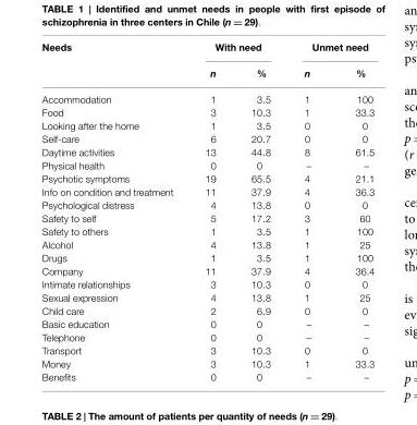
<table><thead><tr><td rowspan="2">Needs</td><td colspan="2">With need</td><td colspan="2">Unmet need</td></tr><tr><td>n</td><td>%</td><td>n</td><td>%</td></tr></thead><tbody><tr><td>Accommodation</td><td>1</td><td>3.5</td><td>1</td><td>100</td></tr><tr><td>Food</td><td>3</td><td>10.3</td><td>1</td><td>33.3</td></tr><tr><td>Looking after the home</td><td>1</td><td>3.5</td><td>0</td><td>0</td></tr><tr><td>Self-care</td><td>6</td><td>20.7</td><td>0</td><td>0</td></tr><tr><td>Daytime activities</td><td>13</td><td>44.8</td><td>8</td><td>61.5</td></tr><tr><td>Physical health</td><td>0</td><td>0</td><td>–</td><td>–</td></tr><tr><td>Psychotic symptoms</td><td>19</td><td>65.5</td><td>4</td><td>21.1</td></tr><tr><td>Info on condition and treatment</td><td>11</td><td>37.9</td><td>4</td><td>36.3</td></tr><tr><td>Psychological distress</td><td>4</td><td>13.8</td><td>0</td><td>0</td></tr><tr><td>Safety to self</td><td>5</td><td>17.2</td><td>3</td><td>60</td></tr><tr><td>Safety to others</td><td>1</td><td>3.5</td><td>1</td><td>100</td></tr><tr><td>Alcohol</td><td>4</td><td>13.8</td><td>1</td><td>25</td></tr><tr><td>Drugs</td><td>1</td><td>3.5</td><td>1</td><td>100</td></tr><tr><td>Company</td><td>11</td><td>37.9</td><td>4</td><td>36.4</td></tr><tr><td>Intimate relationships</td><td>3</td><td>10.3</td><td>0</td><td>0</td></tr><tr><td>Sexual expression</td><td>4</td><td>13.8</td><td>1</td><td>25</td></tr><tr><td>Child care</td><td>2</td><td>6.9</td><td>0</td><td>0</td></tr><tr><td>Basic education</td><td>0</td><td>0</td><td>–</td><td>–</td></tr><tr><td>Telephone</td><td>0</td><td>0</td><td>–</td><td>–</td></tr><tr><td>Transport</td><td>3</td><td>10.3</td><td>0</td><td>0</td></tr><tr><td>Money</td><td>3</td><td>10.3</td><td>1</td><td>33.3</td></tr><tr><td>Benefits</td><td>0</td><td>0</td><td>–</td><td>–</td></tr></tbody></table>